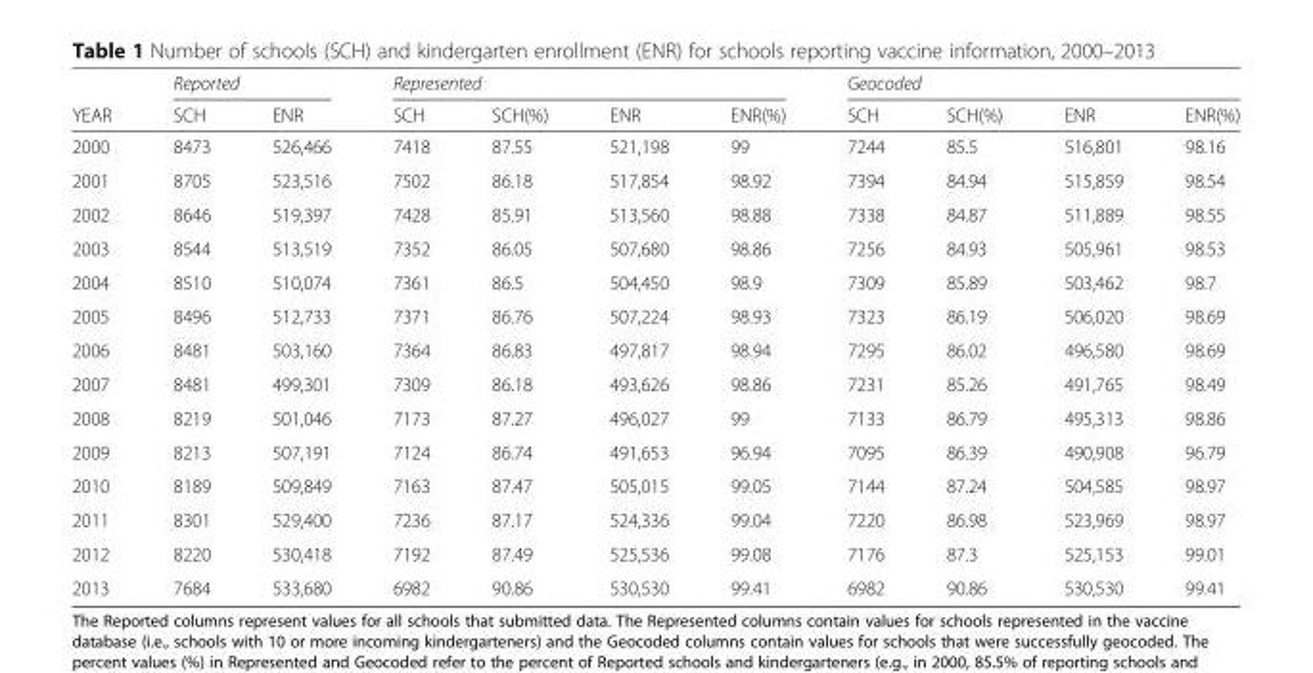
<table><thead><tr><td rowspan="2">YEAR</td><td colspan="2">Reported</td><td colspan="4">Represented</td><td colspan="4">Geocoded</td></tr><tr><td>SCH</td><td>ENR</td><td>SCH</td><td>SCH(%)</td><td>ENR</td><td>ENR(%)</td><td>SCH</td><td>SCH(%)</td><td>ENR</td><td>ENR(%)</td></tr></thead><tbody><tr><td>2000</td><td>8473</td><td>526,466</td><td>7418</td><td>87.55</td><td>521,198</td><td>99</td><td>7244</td><td>85.5</td><td>516,801</td><td>98.16</td></tr><tr><td>2001</td><td>8705</td><td>523,516</td><td>7502</td><td>86.18</td><td>517,854</td><td>98.92</td><td>7394</td><td>84.94</td><td>515,859</td><td>98.54</td></tr><tr><td>2002</td><td>8646</td><td>519,397</td><td>7428</td><td>85.91</td><td>513,560</td><td>98.88</td><td>7338</td><td>84.87</td><td>511,889</td><td>98.55</td></tr><tr><td>2003</td><td>8544</td><td>513,519</td><td>7352</td><td>86.05</td><td>507,680</td><td>98.86</td><td>7256</td><td>84.93</td><td>505,961</td><td>98.53</td></tr><tr><td>2004</td><td>8510</td><td>510,074</td><td>7361</td><td>86.5</td><td>504,450</td><td>98.9</td><td>7309</td><td>85.89</td><td>503,462</td><td>98.7</td></tr><tr><td>2005</td><td>8496</td><td>512,733</td><td>7371</td><td>86.76</td><td>507,224</td><td>98.93</td><td>7323</td><td>86.19</td><td>506,020</td><td>98.69</td></tr><tr><td>2006</td><td>8481</td><td>503,160</td><td>7364</td><td>86.83</td><td>497,817</td><td>98.94</td><td>7295</td><td>86.02</td><td>496,580</td><td>98.69</td></tr><tr><td>2007</td><td>8481</td><td>499,301</td><td>7309</td><td>86.18</td><td>493,626</td><td>98.86</td><td>7231</td><td>85.26</td><td>491,765</td><td>98.49</td></tr><tr><td>2008</td><td>8219</td><td>501,046</td><td>7173</td><td>87.27</td><td>496,027</td><td>99</td><td>7133</td><td>86.79</td><td>495,313</td><td>98.86</td></tr><tr><td>2009</td><td>8213</td><td>507,191</td><td>7124</td><td>86.74</td><td>491,653</td><td>96.94</td><td>7095</td><td>86.39</td><td>490,908</td><td>96.79</td></tr><tr><td>2010</td><td>8189</td><td>509,849</td><td>7163</td><td>87.47</td><td>505,015</td><td>99.05</td><td>7144</td><td>87.24</td><td>504,585</td><td>98.97</td></tr><tr><td>2011</td><td>8301</td><td>529,400</td><td>7236</td><td>87.17</td><td>524,336</td><td>99.04</td><td>7220</td><td>86.98</td><td>523,969</td><td>98.97</td></tr><tr><td>2012</td><td>8220</td><td>530,418</td><td>7192</td><td>87.49</td><td>525,536</td><td>99.08</td><td>7176</td><td>87.3</td><td>525,153</td><td>99.01</td></tr><tr><td>2013</td><td>7684</td><td>533,680</td><td>6982</td><td>90.86</td><td>530,530</td><td>99.41</td><td>6982</td><td>90.86</td><td>530,530</td><td>99.41</td></tr></tbody></table>